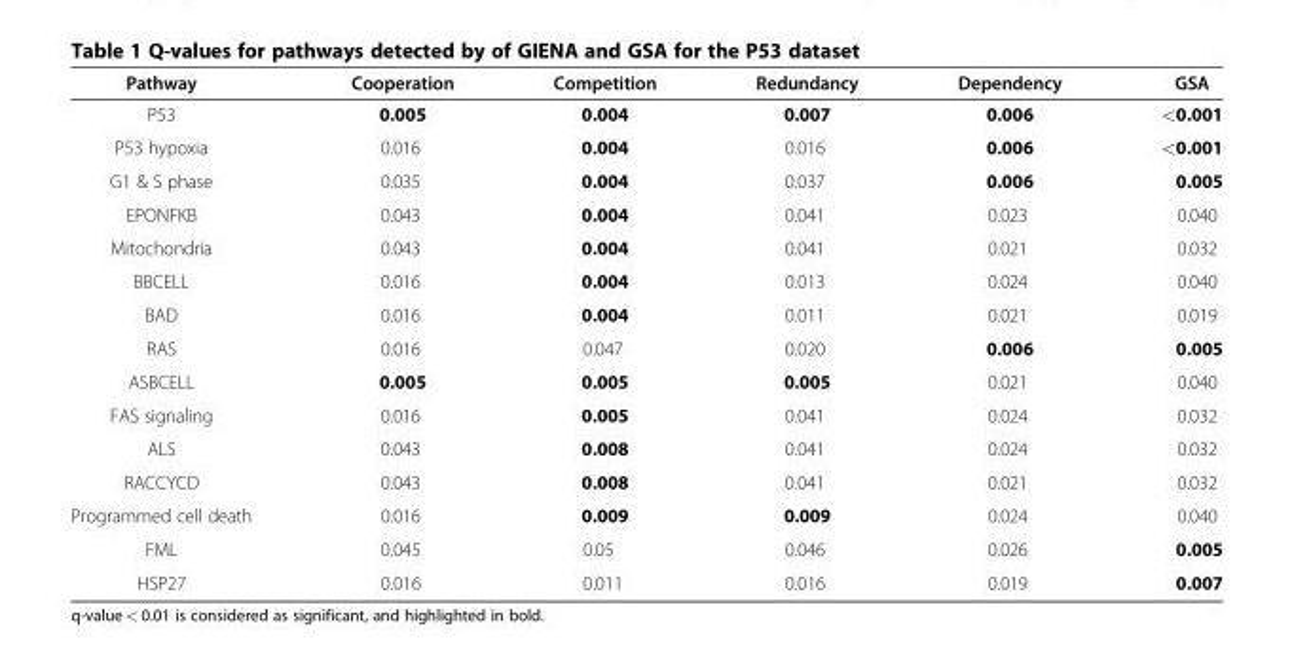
<table><thead><tr><td>Pathway</td><td>Cooperation</td><td>Competition</td><td>Redundancy</td><td>Dependency</td><td>GSA</td></tr></thead><tbody><tr><td>P53</td><td>0.005</td><td>0.004</td><td>0.007</td><td>0.006</td><td>&lt;0.001</td></tr><tr><td>P53 hypoxia</td><td>0.016</td><td>0.004</td><td>0.016</td><td>0.006</td><td>&lt;0.001</td></tr><tr><td>G1 &amp; S phase</td><td>0.035</td><td>0.004</td><td>0.037</td><td>0.006</td><td>0.005</td></tr><tr><td>EPONFKB</td><td>0.043</td><td>0.004</td><td>0.041</td><td>0.023</td><td>0.040</td></tr><tr><td>Mitochondria</td><td>0.043</td><td>0.004</td><td>0.041</td><td>0.021</td><td>0.032</td></tr><tr><td>BBCELL</td><td>0.016</td><td>0.004</td><td>0.013</td><td>0.024</td><td>0.040</td></tr><tr><td>BAD</td><td>0.016</td><td>0.004</td><td>0.011</td><td>0.021</td><td>0.019</td></tr><tr><td>RAS</td><td>0.016</td><td>0.047</td><td>0.020</td><td>0.006</td><td>0.005</td></tr><tr><td>ASBCELL</td><td>0.005</td><td>0.005</td><td>0.005</td><td>0.021</td><td>0.040</td></tr><tr><td>FAS signaling</td><td>0.016</td><td>0.005</td><td>0.041</td><td>0.024</td><td>0.032</td></tr><tr><td>ALS</td><td>0.043</td><td>0.008</td><td>0.041</td><td>0.024</td><td>0.032</td></tr><tr><td>RACCYCD</td><td>0.043</td><td>0.008</td><td>0.041</td><td>0.021</td><td>0.032</td></tr><tr><td>Programmed cell death</td><td>0.016</td><td>0.009</td><td>0.009</td><td>0.024</td><td>0.040</td></tr><tr><td>FML</td><td>0.045</td><td>0.05</td><td>0.046</td><td>0.026</td><td>0.005</td></tr><tr><td>HSP27</td><td>0.016</td><td>0.011</td><td>0.016</td><td>0.019</td><td>0.007</td></tr></tbody></table>